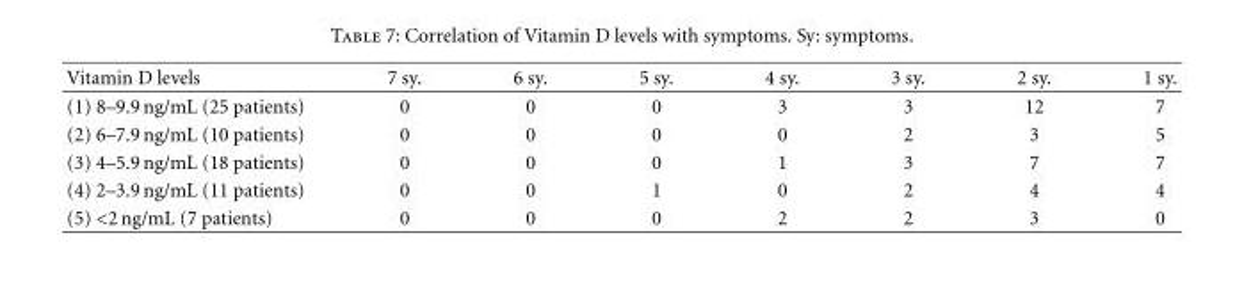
<table><thead><tr><td>Vitamin D levels</td><td>7 sy.</td><td>6 sy.</td><td>5 sy.</td><td>4 sy.</td><td>3 sy.</td><td>2 sy.</td><td>1 sy.</td></tr></thead><tbody><tr><td>(1) 8–9.9 ng/mL (25 patients)</td><td>0</td><td>0</td><td>0</td><td>3</td><td>3</td><td>12</td><td>7</td></tr><tr><td>(2) 6–7.9 ng/mL (10 patients)</td><td>0</td><td>0</td><td>0</td><td>0</td><td>2</td><td>3</td><td>5</td></tr><tr><td>(3) 4–5.9 ng/mL (18 patients)</td><td>0</td><td>0</td><td>0</td><td>1</td><td>3</td><td>7</td><td>7</td></tr><tr><td>(4) 2–3.9 ng/mL (11 patients)</td><td>0</td><td>0</td><td>1</td><td>0</td><td>2</td><td>4</td><td>4</td></tr><tr><td>(5) &lt;2 ng/mL (7 patients)</td><td>0</td><td>0</td><td>0</td><td>2</td><td>2</td><td>3</td><td>0</td></tr></tbody></table>